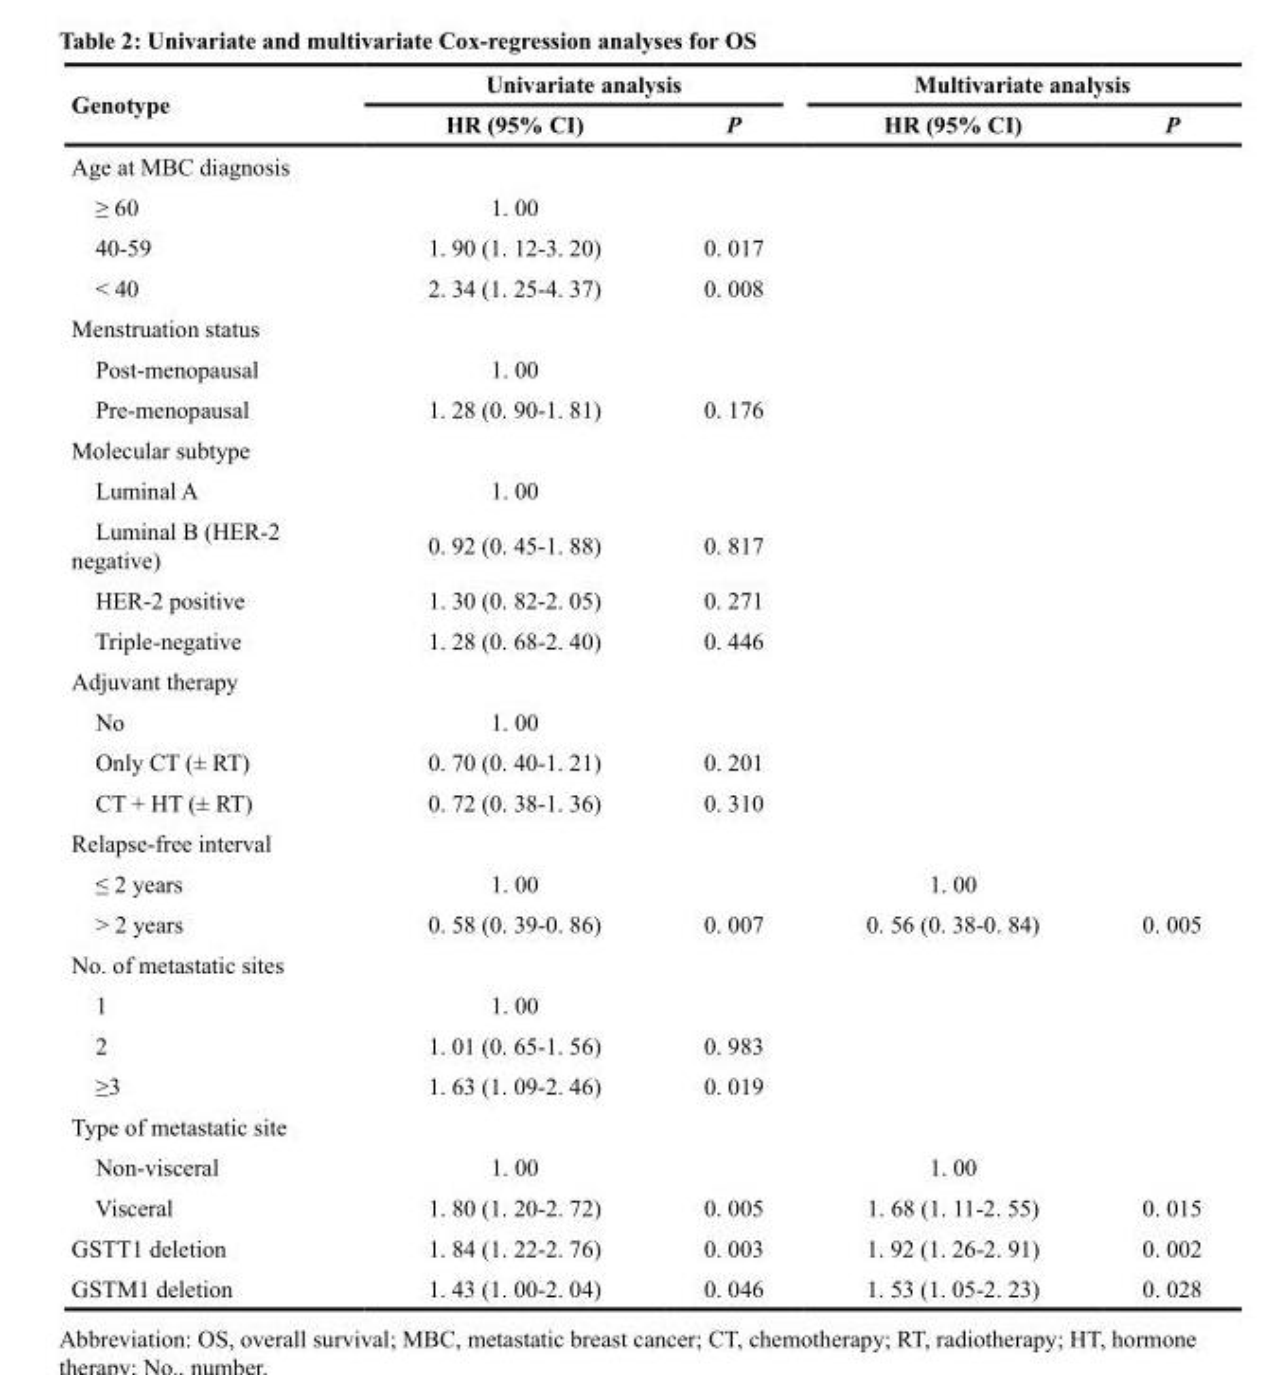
<table><thead><tr><td rowspan="2">Genotype</td><td colspan="2">Univariate analysis</td><td colspan="2">Multivariate analysis</td></tr><tr><td>HR (95% CI)</td><td>P</td><td>HR (95% CI)</td><td>P</td></tr></thead><tbody><tr><td colspan="5">Age at MBC diagnosis</td></tr><tr><td>≥ 60</td><td>1. 00</td><td></td><td></td><td></td></tr><tr><td>40-59</td><td>1. 90 (1. 12-3. 20)</td><td>0. 017</td><td></td><td></td></tr><tr><td>&lt; 40</td><td>2. 34 (1. 25-4. 37)</td><td>0. 008</td><td></td><td></td></tr><tr><td colspan="5">Menstruation status</td></tr><tr><td>Post-menopausal</td><td>1. 00</td><td></td><td></td><td></td></tr><tr><td>Pre-menopausal</td><td>1. 28 (0. 90-1. 81)</td><td>0. 176</td><td></td><td></td></tr><tr><td colspan="5">Molecular subtype</td></tr><tr><td>Luminal A</td><td>1. 00</td><td></td><td></td><td></td></tr><tr><td>Luminal B (HER-2 negative)</td><td>0. 92 (0. 45-1. 88)</td><td>0. 817</td><td></td><td></td></tr><tr><td>HER-2 positive</td><td>1. 30 (0. 82-2. 05)</td><td>0. 271</td><td></td><td></td></tr><tr><td>Triple-negative</td><td>1. 28 (0. 68-2. 40)</td><td>0. 446</td><td></td><td></td></tr><tr><td colspan="5">Adjuvant therapy</td></tr><tr><td>No</td><td>1. 00</td><td></td><td></td><td></td></tr><tr><td>Only CT (± RT)</td><td>0. 70 (0. 40-1. 21)</td><td>0. 201</td><td></td><td></td></tr><tr><td>CT + HT (± RT)</td><td>0. 72 (0. 38-1. 36)</td><td>0. 310</td><td></td><td></td></tr><tr><td colspan="5">Relapse-free interval</td></tr><tr><td>≤ 2 years</td><td>1. 00</td><td></td><td>1. 00</td><td></td></tr><tr><td>&gt; 2 years</td><td>0. 58 (0. 39-0. 86)</td><td>0. 007</td><td>0. 56 (0. 38-0. 84)</td><td>0. 005</td></tr><tr><td colspan="5">No. of metastatic sites</td></tr><tr><td>1</td><td>1. 00</td><td></td><td></td><td></td></tr><tr><td>2</td><td>1. 01 (0. 65-1. 56)</td><td>0. 983</td><td></td><td></td></tr><tr><td>≥3</td><td>1. 63 (1. 09-2. 46)</td><td>0. 019</td><td></td><td></td></tr><tr><td colspan="5">Type of metastatic site</td></tr><tr><td>Non-visceral</td><td>1. 00</td><td></td><td>1. 00</td><td></td></tr><tr><td>Visceral</td><td>1. 80 (1. 20-2. 72)</td><td>0. 005</td><td>1. 68 (1. 11-2. 55)</td><td>0. 015</td></tr><tr><td>GSTT1 deletion</td><td>1. 84 (1. 22-2. 76)</td><td>0. 003</td><td>1. 92 (1. 26-2. 91)</td><td>0. 002</td></tr><tr><td>GSTM1 deletion</td><td>1. 43 (1. 00-2. 04)</td><td>0. 046</td><td>1. 53 (1. 05-2. 23)</td><td>0. 028</td></tr></tbody></table>